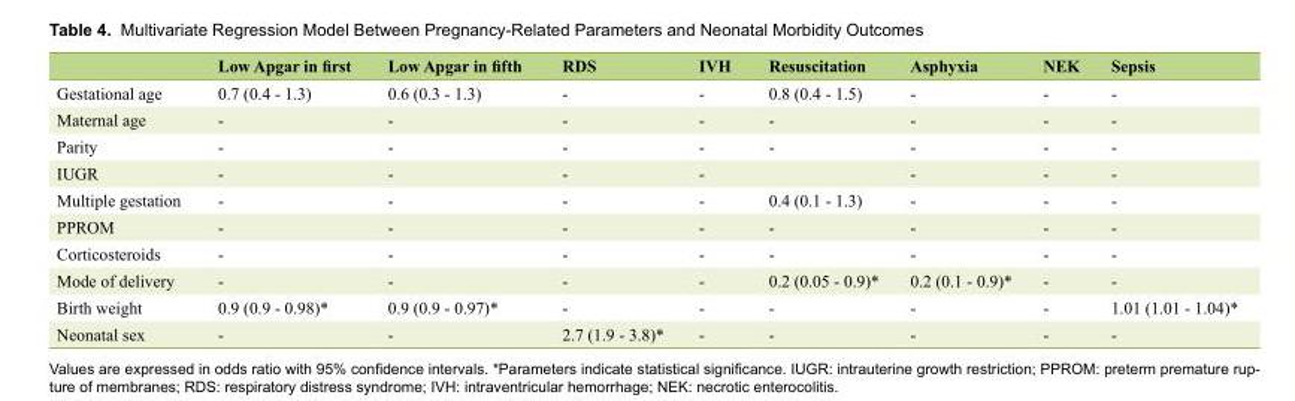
<table><thead><tr><td></td><td>Low Apgar in first</td><td>Low Apgar in fifth</td><td>RDS</td><td>IVH</td><td>Resuscitation</td><td>Asphyxia</td><td>NEK</td><td>Sepsis</td></tr></thead><tbody><tr><td>Gestational age</td><td>0.7 (0.4 - 1.3)</td><td>0.6 (0.3 - 1.3)</td><td>-</td><td>-</td><td>0.8 (0.4 - 1.5)</td><td>-</td><td>-</td><td>-</td></tr><tr><td>Maternal age</td><td>-</td><td>-</td><td>-</td><td>-</td><td>-</td><td>-</td><td>-</td><td>-</td></tr><tr><td>Parity</td><td>-</td><td>-</td><td>-</td><td>-</td><td>-</td><td>-</td><td>-</td><td>-</td></tr><tr><td>IUGR</td><td>-</td><td>-</td><td>-</td><td>-</td><td></td><td>-</td><td>-</td><td>-</td></tr><tr><td>Multiple gestation</td><td>-</td><td>-</td><td>-</td><td>-</td><td>0.4 (0.1 - 1.3)</td><td>-</td><td>-</td><td>-</td></tr><tr><td>PPROM</td><td>-</td><td>-</td><td>-</td><td>-</td><td>-</td><td>-</td><td>-</td><td>-</td></tr><tr><td>Corticosteroids</td><td>-</td><td>-</td><td>-</td><td>-</td><td>-</td><td>-</td><td>-</td><td>-</td></tr><tr><td>Mode of delivery</td><td>-</td><td>-</td><td>-</td><td>-</td><td>0.2 (0.05 - 0.9)*</td><td>0.2 (0.1 - 0.9)*</td><td>-</td><td>-</td></tr><tr><td>Birth weight</td><td>0.9 (0.9 - 0.98)*</td><td>0.9 (0.9 - 0.97)*</td><td>-</td><td>-</td><td>-</td><td>-</td><td>-</td><td>1.01 (1.01 - 1.04)*</td></tr><tr><td>Neonatal sex</td><td>-</td><td>-</td><td>2.7 (1.9 - 3.8)*</td><td>-</td><td>-</td><td>-</td><td>-</td><td>-</td></tr></tbody></table>